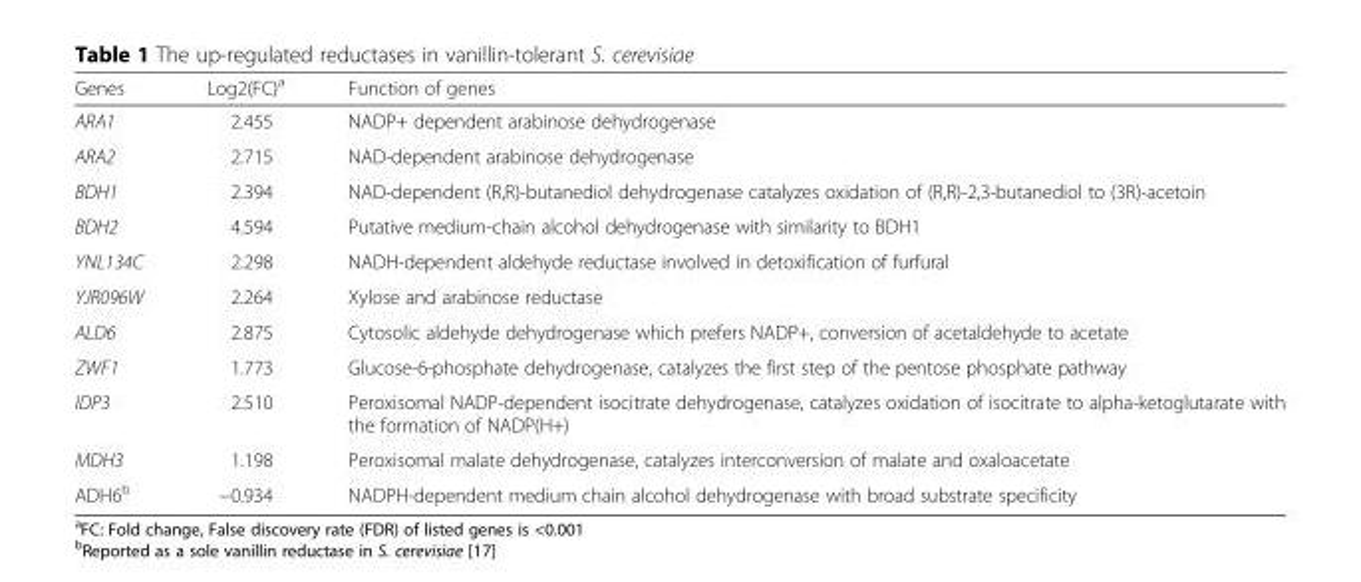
<table><thead><tr><td>Genes</td><td>Log2(FC)<sup>a</sup></td><td>Function of genes</td></tr></thead><tbody><tr><td>ARA1</td><td>2.455</td><td>NADP+ dependent arabinose dehydrogenase</td></tr><tr><td>ARA2</td><td>2.715</td><td>NAD-dependent arabinose dehydrogenase</td></tr><tr><td>BDH1</td><td>2.394</td><td>NAD-dependent (R,R)-butanediol dehydrogenase catalyzes oxidation of (R,R)-2,3-butanediol to (3R)-acetoin</td></tr><tr><td>BDH2</td><td>4.594</td><td>Putative medium-chain alcohol dehydrogenase with similarity to BDH1</td></tr><tr><td>YNL134C</td><td>2.298</td><td>NADH-dependent aldehyde reductase involved in detoxification of furfural</td></tr><tr><td>YJR096W</td><td>2.264</td><td>Xylose and arabinose reductase</td></tr><tr><td>ALD6</td><td>2.875</td><td>Cytosolic aldehyde dehydrogenase which prefers NADP+, conversion of acetaldehyde to acetate</td></tr><tr><td>ZWF1</td><td>1.773</td><td>Glucose-6-phosphate dehydrogenase, catalyzes the first step of the pentose phosphate pathway</td></tr><tr><td>IDP3</td><td>2.510</td><td>Peroxisomal NADP-dependent isocitrate dehydrogenase, catalyzes oxidation of isocitrate to alpha-ketoglutarate with the formation of NADP(H+)</td></tr><tr><td>MDH3</td><td>1.198</td><td>Peroxisomal malate dehydrogenase, catalyzes interconversion of malate and oxaloacetate</td></tr><tr><td>ADH6<sup>b</sup></td><td>−0.934</td><td>NADPH-dependent medium chain alcohol dehydrogenase with broad substrate specificity</td></tr></tbody></table>